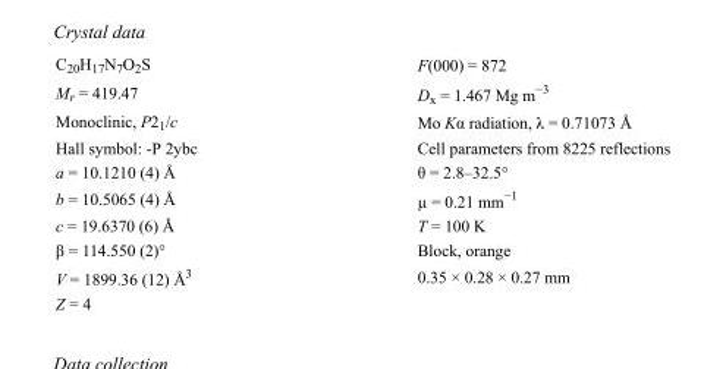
<table><tbody><tr><td>C<sub>20</sub>H<sub>17</sub>N<sub>7</sub>O<sub>2</sub>S</td><td>F(000) = 872</td></tr><tr><td>M<sub>r</sub> = 419.47</td><td>D<sub>x</sub> = 1.467 Mg m<sup>−3</sup></td></tr><tr><td>Monoclinic, P2<sub>1</sub>/c</td><td>Mo Kα radiation, λ = 0.71073 Å</td></tr><tr><td>Hall symbol: -P 2ybc</td><td>Cell parameters from 8225 reflections</td></tr><tr><td>a = 10.1210 (4) Å</td><td>θ = 2.8–32.5°</td></tr><tr><td>b = 10.5065 (4) Å</td><td>µ = 0.21 mm<sup>−1</sup></td></tr><tr><td>c = 19.6370 (6) Å</td><td>T = 100 K</td></tr><tr><td>β = 114.550 (2)°</td><td>Block, orange</td></tr><tr><td>V = 1899.36 (12) Å<sup>3</sup></td><td>0.35 × 0.28 × 0.27 mm</td></tr><tr><td>Z = 4</td><td></td></tr></tbody></table>